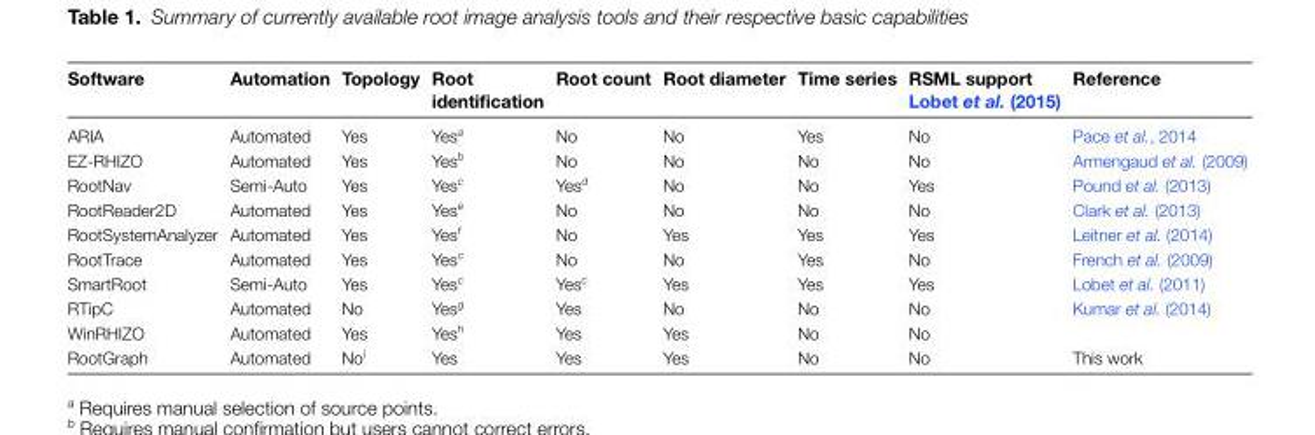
<table><thead><tr><td>Software</td><td>Automation</td><td>Topology</td><td>Root identification</td><td>Root count</td><td>Root diameter</td><td>Time series</td><td>RSML support Lobet et al. (2015)</td><td>Reference</td></tr></thead><tbody><tr><td>ARIA</td><td>Automated</td><td>Yes</td><td>Yes<sup>a</sup></td><td>No</td><td>No</td><td>Yes</td><td>No</td><td>Pace et al., 2014</td></tr><tr><td>EZ-RHIZO</td><td>Automated</td><td>Yes</td><td>Yes<sup>b</sup></td><td>No</td><td>No</td><td>No</td><td>No</td><td>Armengaud et al. (2009)</td></tr><tr><td>RootNav</td><td>Semi-Auto</td><td>Yes</td><td>Yes<sup>c</sup></td><td>Yes<sup>d</sup></td><td>No</td><td>No</td><td>Yes</td><td>Pound et al. (2013)</td></tr><tr><td>RootReader2D</td><td>Automated</td><td>Yes</td><td>Yes<sup>e</sup></td><td>No</td><td>No</td><td>No</td><td>No</td><td>Clark et al. (2013)</td></tr><tr><td>RootSystemAnalyzer</td><td>Automated</td><td>Yes</td><td>Yes<sup>f</sup></td><td>No</td><td>Yes</td><td>Yes</td><td>Yes</td><td>Leitner et al. (2014)</td></tr><tr><td>RootTrace</td><td>Automated</td><td>Yes</td><td>Yes<sup>c</sup></td><td>No</td><td>No</td><td>Yes</td><td>No</td><td>French et al. (2009)</td></tr><tr><td>SmartRoot</td><td>Semi-Auto</td><td>Yes</td><td>Yes<sup>c</sup></td><td>Yes<sup>c</sup></td><td>Yes</td><td>Yes</td><td>Yes</td><td>Lobet et al. (2011)</td></tr><tr><td>RTipC</td><td>Automated</td><td>No</td><td>Yes<sup>g</sup></td><td>Yes</td><td>No</td><td>No</td><td>No</td><td>Kumar et al. (2014)</td></tr><tr><td>WinRHIZO</td><td>Automated</td><td>Yes</td><td>Yes<sup>h</sup></td><td>Yes</td><td>Yes</td><td>No</td><td>No</td><td></td></tr><tr><td>RootGraph</td><td>Automated</td><td>No<sup>i</sup></td><td>Yes</td><td>Yes</td><td>Yes</td><td>No</td><td>No</td><td>This work</td></tr></tbody></table>